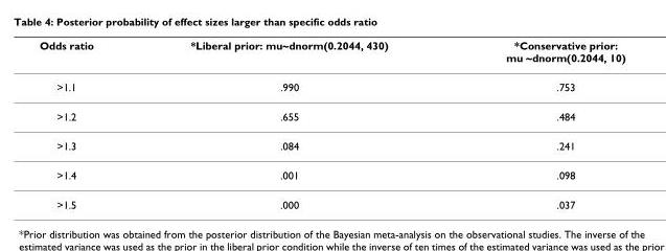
<table><thead><tr><td>Odds ratio</td><td>*Liberal prior: mu~dnorm(0.2044, 430)</td><td>*Conservative prior: mu ~dnorm(0.2044, 10)</td></tr></thead><tbody><tr><td>&gt;1.1</td><td>.990</td><td>.753</td></tr><tr><td>&gt;1.2</td><td>.655</td><td>.484</td></tr><tr><td>&gt;1.3</td><td>.084</td><td>.241</td></tr><tr><td>&gt;1.4</td><td>.001</td><td>.098</td></tr><tr><td>&gt;1.5</td><td>.000</td><td>.037</td></tr></tbody></table>